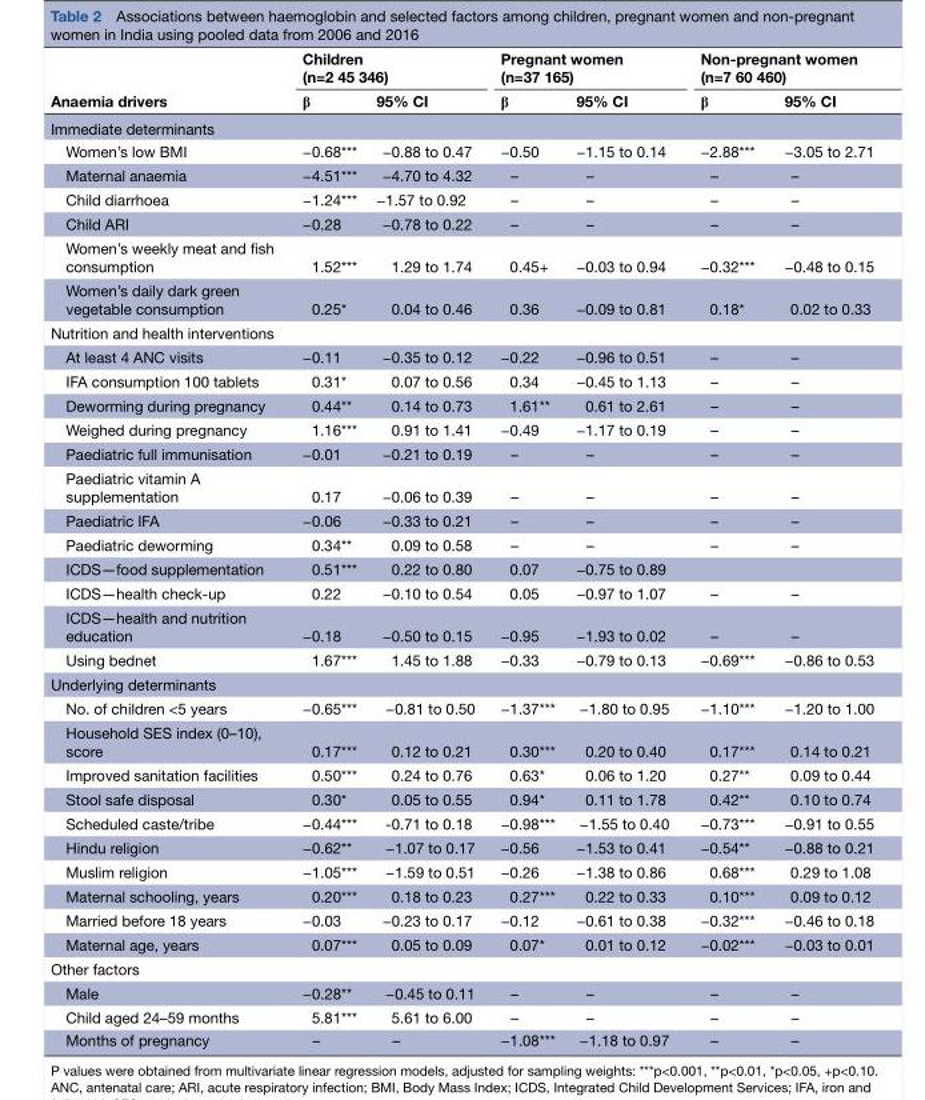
<table><thead><tr><td rowspan="2">Anaemia drivers</td><td colspan="2">Children (n=2 45 346)</td><td colspan="2">Pregnant women (n=37 165)</td><td colspan="2">Non-pregnant women (n=7 60 460)</td></tr><tr><td>β</td><td>95% CI</td><td>β</td><td>95% CI</td><td>β</td><td>95% CI</td></tr></thead><tbody><tr><td colspan="7">Immediate determinants</td></tr><tr><td>Women’s low BMI</td><td>−0.68***</td><td>−0.88 to 0.47</td><td>−0.50</td><td>−1.15 to 0.14</td><td>−2.88***</td><td>−3.05 to 2.71</td></tr><tr><td>Maternal anaemia</td><td>−4.51***</td><td>−4.70 to 4.32</td><td>–</td><td>–</td><td>–</td><td>–</td></tr><tr><td>Child diarrhoea</td><td>−1.24***</td><td>−1.57 to 0.92</td><td>–</td><td>–</td><td>–</td><td>–</td></tr><tr><td>Child ARI</td><td>−0.28</td><td>−0.78 to 0.22</td><td>–</td><td>–</td><td>–</td><td>–</td></tr><tr><td>Women’s weekly meat and fish consumption</td><td>1.52***</td><td>1.29 to 1.74</td><td>0.45+</td><td>−0.03 to 0.94</td><td>−0.32***</td><td>−0.48 to 0.15</td></tr><tr><td>Women’s daily dark green vegetable consumption</td><td>0.25*</td><td>0.04 to 0.46</td><td>0.36</td><td>−0.09 to 0.81</td><td>0.18*</td><td>0.02 to 0.33</td></tr><tr><td colspan="7">Nutrition and health interventions</td></tr><tr><td>At least 4 ANC visits</td><td>−0.11</td><td>−0.35 to 0.12</td><td>−0.22</td><td>−0.96 to 0.51</td><td>–</td><td>–</td></tr><tr><td>IFA consumption 100 tablets</td><td>0.31*</td><td>0.07 to 0.56</td><td>0.34</td><td>−0.45 to 1.13</td><td>–</td><td>–</td></tr><tr><td>Deworming during pregnancy</td><td>0.44**</td><td>0.14 to 0.73</td><td>1.61**</td><td>0.61 to 2.61</td><td>–</td><td>–</td></tr><tr><td>Weighed during pregnancy</td><td>1.16***</td><td>0.91 to 1.41</td><td>−0.49</td><td>−1.17 to 0.19</td><td>–</td><td>–</td></tr><tr><td>Paediatric full immunisation</td><td>−0.01</td><td>−0.21 to 0.19</td><td>–</td><td>–</td><td>–</td><td>–</td></tr><tr><td>Paediatric vitamin A supplementation</td><td>0.17</td><td>−0.06 to 0.39</td><td>–</td><td>–</td><td>–</td><td>–</td></tr><tr><td>Paediatric IFA</td><td>−0.06</td><td>−0.33 to 0.21</td><td>–</td><td>–</td><td>–</td><td>–</td></tr><tr><td>Paediatric deworming</td><td>0.34**</td><td>0.09 to 0.58</td><td>–</td><td>–</td><td>–</td><td>–</td></tr><tr><td>ICDS—food supplementation</td><td>0.51***</td><td>0.22 to 0.80</td><td>0.07</td><td>−0.75 to 0.89</td><td></td><td></td></tr><tr><td>ICDS—health check-up</td><td>0.22</td><td>−0.10 to 0.54</td><td>0.05</td><td>−0.97 to 1.07</td><td>–</td><td>–</td></tr><tr><td>ICDS—health and nutrition education</td><td>−0.18</td><td>−0.50 to 0.15</td><td>−0.95</td><td>−1.93 to 0.02</td><td>–</td><td>–</td></tr><tr><td>Using bednet</td><td>1.67***</td><td>1.45 to 1.88</td><td>−0.33</td><td>−0.79 to 0.13</td><td>−0.69***</td><td>−0.86 to 0.53</td></tr><tr><td colspan="7">Underlying determinants</td></tr><tr><td>No. of children &lt;5 years</td><td>−0.65***</td><td>−0.81 to 0.50</td><td>−1.37***</td><td>−1.80 to 0.95</td><td>−1.10***</td><td>−1.20 to 1.00</td></tr><tr><td>Household SES index (0–10), score</td><td>0.17***</td><td>0.12 to 0.21</td><td>0.30***</td><td>0.20 to 0.40</td><td>0.17***</td><td>0.14 to 0.21</td></tr><tr><td>Improved sanitation facilities</td><td>0.50***</td><td>0.24 to 0.76</td><td>0.63*</td><td>0.06 to 1.20</td><td>0.27**</td><td>0.09 to 0.44</td></tr><tr><td>Stool safe disposal</td><td>0.30*</td><td>0.05 to 0.55</td><td>0.94*</td><td>0.11 to 1.78</td><td>0.42**</td><td>0.10 to 0.74</td></tr><tr><td>Scheduled caste/tribe</td><td>−0.44***</td><td>-0.71 to 0.18</td><td>−0.98***</td><td>−1.55 to 0.40</td><td>−0.73***</td><td>−0.91 to 0.55</td></tr><tr><td>Hindu religion</td><td>−0.62**</td><td>−1.07 to 0.17</td><td>−0.56</td><td>−1.53 to 0.41</td><td>−0.54**</td><td>−0.88 to 0.21</td></tr><tr><td>Muslim religion</td><td>−1.05***</td><td>−1.59 to 0.51</td><td>−0.26</td><td>−1.38 to 0.86</td><td>0.68***</td><td>0.29 to 1.08</td></tr><tr><td>Maternal schooling, years</td><td>0.20***</td><td>0.18 to 0.23</td><td>0.27***</td><td>0.22 to 0.33</td><td>0.10***</td><td>0.09 to 0.12</td></tr><tr><td>Married before 18 years</td><td>−0.03</td><td>−0.23 to 0.17</td><td>−0.12</td><td>−0.61 to 0.38</td><td>−0.32***</td><td>−0.46 to 0.18</td></tr><tr><td>Maternal age, years</td><td>0.07***</td><td>0.05 to 0.09</td><td>0.07*</td><td>0.01 to 0.12</td><td>−0.02***</td><td>−0.03 to 0.01</td></tr><tr><td colspan="7">Other factors</td></tr><tr><td>Male</td><td>−0.28**</td><td>−0.45 to 0.11</td><td>–</td><td>–</td><td>–</td><td>–</td></tr><tr><td>Child aged 24–59 months</td><td>5.81***</td><td>5.61 to 6.00</td><td>–</td><td>–</td><td>–</td><td>–</td></tr><tr><td>Months of pregnancy</td><td>–</td><td>–</td><td>−1.08***</td><td>−1.18 to 0.97</td><td>–</td><td>–</td></tr></tbody></table>